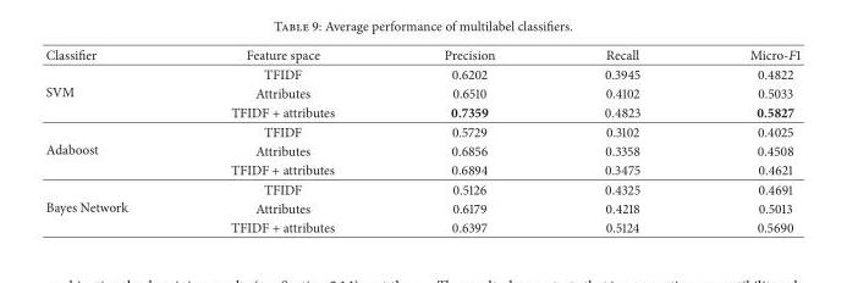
<table><thead><tr><td>Classifier</td><td>Feature space</td><td>Precision</td><td>Recall</td><td>Micro-F1</td></tr></thead><tbody><tr><td rowspan="3">SVM</td><td>TFIDF</td><td>0.6202</td><td>0.3945</td><td>0.4822</td></tr><tr><td>Attributes</td><td>0.6510</td><td>0.4102</td><td>0.5033</td></tr><tr><td>TFIDF + attributes</td><td>0.7359</td><td>0.4823</td><td>0.5827</td></tr><tr><td rowspan="3">Adaboost</td><td>TFIDF</td><td>0.5729</td><td>0.3102</td><td>0.4025</td></tr><tr><td>Attributes</td><td>0.6856</td><td>0.3358</td><td>0.4508</td></tr><tr><td>TFIDF + attributes</td><td>0.6894</td><td>0.3475</td><td>0.4621</td></tr><tr><td rowspan="3">Bayes Network</td><td>TFIDF</td><td>0.5126</td><td>0.4325</td><td>0.4691</td></tr><tr><td>Attributes</td><td>0.6179</td><td>0.4218</td><td>0.5013</td></tr><tr><td>TFIDF + attributes</td><td>0.6397</td><td>0.5124</td><td>0.5690</td></tr></tbody></table>